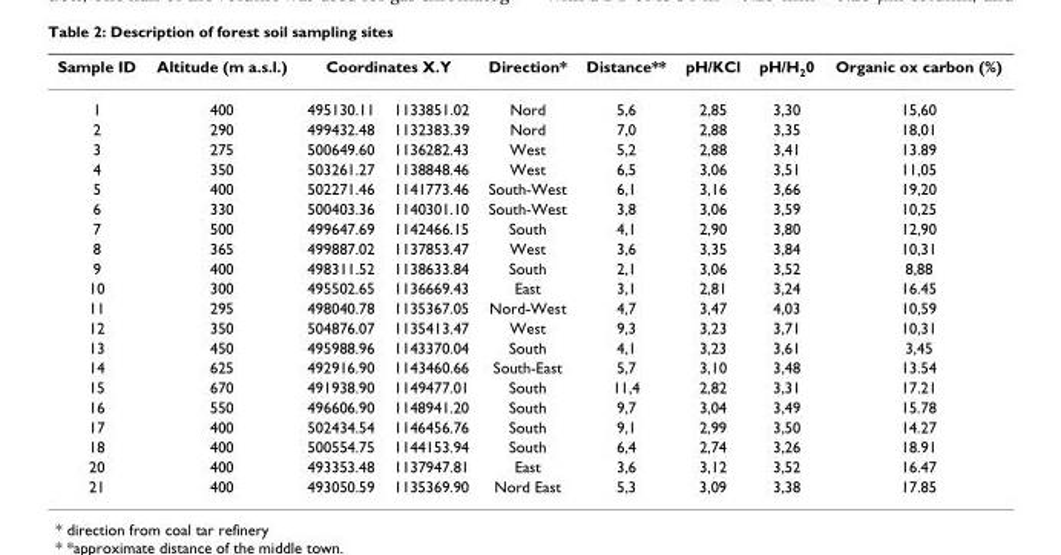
<table><thead><tr><td rowspan="2">Sample ID 1</td><td rowspan="2">Altitude (m a.s.l.) 400</td><td colspan="2">Coordinates X.Y</td><td rowspan="2">Direction* Nord</td><td rowspan="2">Distance** 5,6</td><td rowspan="2">pH/KCl 2,85</td><td rowspan="2">pH/H<sub>2</sub>0 3,30</td><td rowspan="2">Organic ox carbon (%) 15,60</td></tr><tr><td>495130.11</td><td>1133851.02</td></tr></thead><tbody><tr><td>2</td><td>290</td><td>499432.48</td><td>1132383.39</td><td>Nord</td><td>7,0</td><td>2,88</td><td>3,35</td><td>18,01</td></tr><tr><td>3</td><td>275</td><td>500649.60</td><td>1136282.43</td><td>West</td><td>5,2</td><td>2,88</td><td>3,41</td><td>13.89</td></tr><tr><td>4</td><td>350</td><td>503261.27</td><td>1138848.46</td><td>West</td><td>6,5</td><td>3,06</td><td>3,51</td><td>11,05</td></tr><tr><td>5</td><td>400</td><td>502271.46</td><td>1141773.46</td><td>South-West</td><td>6,1</td><td>3,16</td><td>3,66</td><td>19,20</td></tr><tr><td>6</td><td>330</td><td>500403.36</td><td>1140301.10</td><td>South-West</td><td>3,8</td><td>3,06</td><td>3,59</td><td>10,25</td></tr><tr><td>7</td><td>500</td><td>499647.69</td><td>1142466.15</td><td>South</td><td>4,1</td><td>2,90</td><td>3,80</td><td>12,90</td></tr><tr><td>8</td><td>365</td><td>499887.02</td><td>1137853.47</td><td>West</td><td>3,6</td><td>3,35</td><td>3,84</td><td>10,31</td></tr><tr><td>9</td><td>400</td><td>498311.52</td><td>1138633.84</td><td>South</td><td>2,1</td><td>3,06</td><td>3,52</td><td>8,88</td></tr><tr><td>10</td><td>300</td><td>495502.65</td><td>1136669.43</td><td>East</td><td>3,1</td><td>2,81</td><td>3,24</td><td>16.45</td></tr><tr><td>11</td><td>295</td><td>498040.78</td><td>1135367.05</td><td>Nord-West</td><td>4,7</td><td>3,47</td><td>4,03</td><td>10,59</td></tr><tr><td>12</td><td>350</td><td>504876.07</td><td>1135413.47</td><td>West</td><td>9,3</td><td>3,23</td><td>3,71</td><td>10,31</td></tr><tr><td>13</td><td>450</td><td>495988.96</td><td>1143370.04</td><td>South</td><td>4,1</td><td>3,23</td><td>3,61</td><td>3,45</td></tr><tr><td>14</td><td>625</td><td>492916.90</td><td>1143460.66</td><td>South-East</td><td>5,7</td><td>3,10</td><td>3,48</td><td>13.54</td></tr><tr><td>15</td><td>670</td><td>491938.90</td><td>1149477.01</td><td>South</td><td>11,4</td><td>2,82</td><td>3,31</td><td>17.21</td></tr><tr><td>16</td><td>550</td><td>496606.90</td><td>1148941.20</td><td>South</td><td>9,7</td><td>3,04</td><td>3,49</td><td>15.78</td></tr><tr><td>17</td><td>400</td><td>502434.54</td><td>1146456.76</td><td>South</td><td>9,1</td><td>2,99</td><td>3,50</td><td>14.27</td></tr><tr><td>18</td><td>400</td><td>500554.75</td><td>1144153.94</td><td>South</td><td>6,4</td><td>2,74</td><td>3,26</td><td>18.91</td></tr><tr><td>20</td><td>400</td><td>493353.48</td><td>1137947.81</td><td>East</td><td>3,6</td><td>3,12</td><td>3,52</td><td>16.47</td></tr><tr><td>21</td><td>400</td><td>493050.59</td><td>1135369.90</td><td>Nord East</td><td>5,3</td><td>3,09</td><td>3,38</td><td>17.85</td></tr></tbody></table>